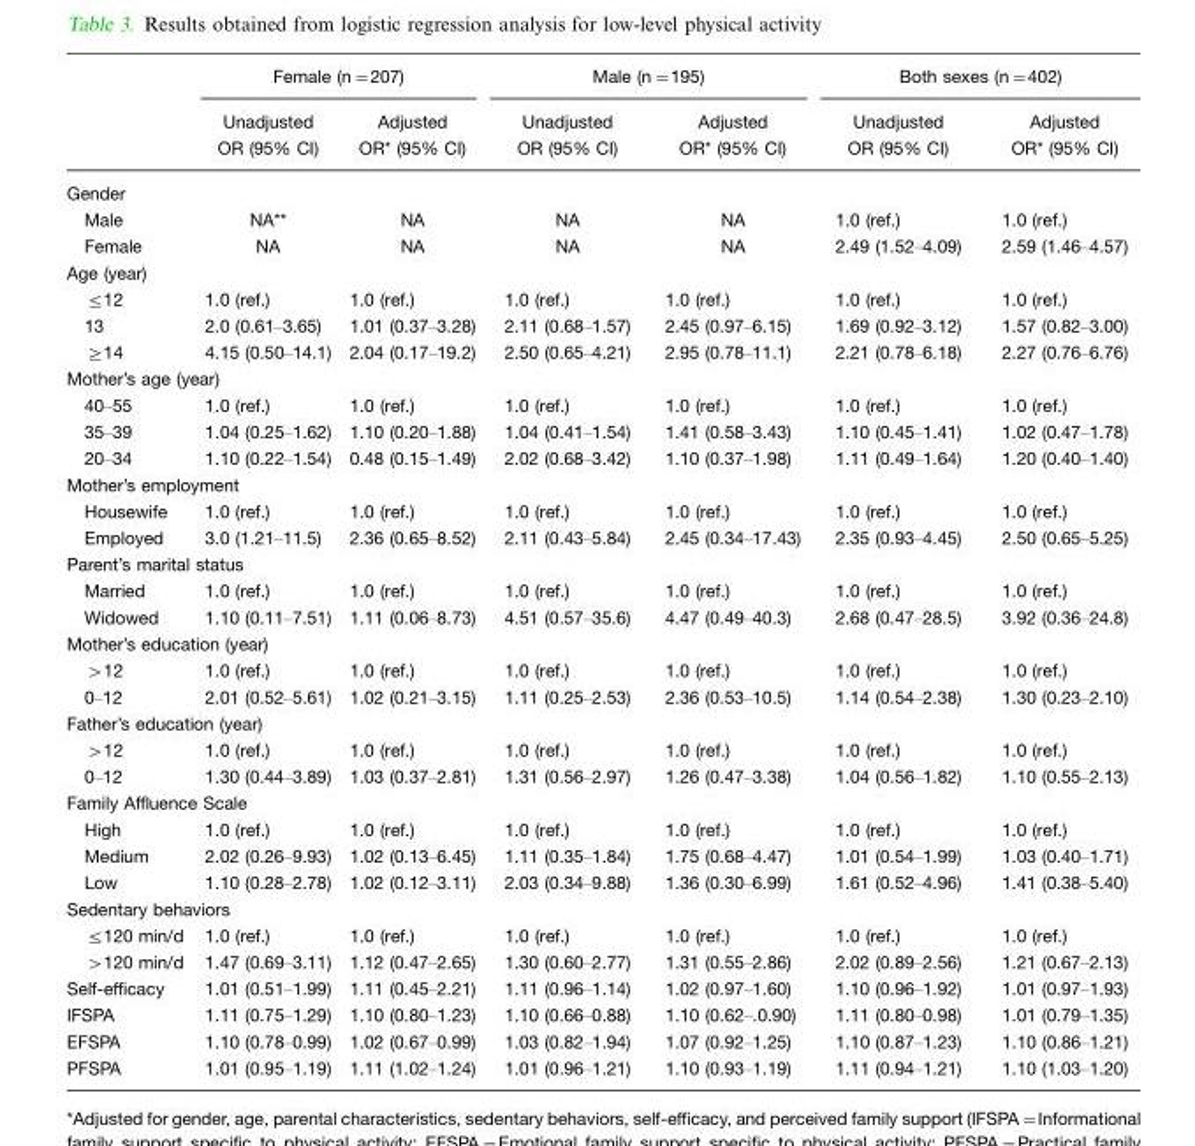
<table><thead><tr><td rowspan="2"></td><td colspan="2">Female (n=207)</td><td colspan="2">Male (n=195)</td><td colspan="2">Both sexes (n=402)</td></tr><tr><td>Unadjusted OR (95% CI)</td><td>Adjusted OR* (95% CI)</td><td>Unadjusted OR (95% CI)</td><td>Adjusted OR* (95% CI)</td><td>Unadjusted OR (95% CI)</td><td>Adjusted OR* (95% CI)</td></tr></thead><tbody><tr><td colspan="7">Gender</td></tr><tr><td>Male</td><td>NA**</td><td>NA</td><td>NA</td><td>NA</td><td>1.0 (ref.)</td><td>1.0 (ref.)</td></tr><tr><td>Female</td><td>NA</td><td>NA</td><td>NA</td><td>NA</td><td>2.49 (1.52–4.09)</td><td>2.59 (1.46–4.57)</td></tr><tr><td colspan="7">Age (year)</td></tr><tr><td>≤12</td><td>1.0 (ref.)</td><td>1.0 (ref.)</td><td>1.0 (ref.)</td><td>1.0 (ref.)</td><td>1.0 (ref.)</td><td>1.0 (ref.)</td></tr><tr><td>13</td><td>2.0 (0.61–3.65)</td><td>1.01 (0.37–3.28)</td><td>2.11 (0.68–1.57)</td><td>2.45 (0.97–6.15)</td><td>1.69 (0.92–3.12)</td><td>1.57 (0.82–3.00)</td></tr><tr><td>≥14</td><td>4.15 (0.50–14.1)</td><td>2.04 (0.17–19.2)</td><td>2.50 (0.65–4.21)</td><td>2.95 (0.78–11.1)</td><td>2.21 (0.78–6.18)</td><td>2.27 (0.76–6.76)</td></tr><tr><td colspan="7">Mother’s age (year)</td></tr><tr><td>40–55</td><td>1.0 (ref.)</td><td>1.0 (ref.)</td><td>1.0 (ref.)</td><td>1.0 (ref.)</td><td>1.0 (ref.)</td><td>1.0 (ref.)</td></tr><tr><td>35–39</td><td>1.04 (0.25–1.62)</td><td>1.10 (0.20–1.88)</td><td>1.04 (0.41–1.54)</td><td>1.41 (0.58–3.43)</td><td>1.10 (0.45–1.41)</td><td>1.02 (0.47–1.78)</td></tr><tr><td>20–34</td><td>1.10 (0.22–1.54)</td><td>0.48 (0.15–1.49)</td><td>2.02 (0.68–3.42)</td><td>1.10 (0.37–1.98)</td><td>1.11 (0.49–1.64)</td><td>1.20 (0.40–1.40)</td></tr><tr><td colspan="7">Mother’s employment</td></tr><tr><td>Housewife</td><td>1.0 (ref.)</td><td>1.0 (ref.)</td><td>1.0 (ref.)</td><td>1.0 (ref.)</td><td>1.0 (ref.)</td><td>1.0 (ref.)</td></tr><tr><td>Employed</td><td>3.0 (1.21–11.5)</td><td>2.36 (0.65–8.52)</td><td>2.11 (0.43–5.84)</td><td>2.45 (0.34–17.43)</td><td>2.35 (0.93–4.45)</td><td>2.50 (0.65–5.25)</td></tr><tr><td colspan="7">Parent’s marital status</td></tr><tr><td>Married</td><td>1.0 (ref.)</td><td>1.0 (ref.)</td><td>1.0 (ref.)</td><td>1.0 (ref.)</td><td>1.0 (ref.)</td><td>1.0 (ref.)</td></tr><tr><td>Widowed</td><td>1.10 (0.11–7.51)</td><td>1.11 (0.06–8.73)</td><td>4.51 (0.57–35.6)</td><td>4.47 (0.49–40.3)</td><td>2.68 (0.47–28.5)</td><td>3.92 (0.36–24.8)</td></tr><tr><td colspan="7">Mother’s education (year)</td></tr><tr><td>&gt;12</td><td>1.0 (ref.)</td><td>1.0 (ref.)</td><td>1.0 (ref.)</td><td>1.0 (ref.)</td><td>1.0 (ref.)</td><td>1.0 (ref.)</td></tr><tr><td>0–12</td><td>2.01 (0.52–5.61)</td><td>1.02 (0.21–3.15)</td><td>1.11 (0.25–2.53)</td><td>2.36 (0.53–10.5)</td><td>1.14 (0.54–2.38)</td><td>1.30 (0.23–2.10)</td></tr><tr><td colspan="7">Father’s education (year)</td></tr><tr><td>&gt;12</td><td>1.0 (ref.)</td><td>1.0 (ref.)</td><td>1.0 (ref.)</td><td>1.0 (ref.)</td><td>1.0 (ref.)</td><td>1.0 (ref.)</td></tr><tr><td>0–12</td><td>1.30 (0.44–3.89)</td><td>1.03 (0.37–2.81)</td><td>1.31 (0.56–2.97)</td><td>1.26 (0.47–3.38)</td><td>1.04 (0.56–1.82)</td><td>1.10 (0.55–2.13)</td></tr><tr><td colspan="7">Family Affluence Scale</td></tr><tr><td>High</td><td>1.0 (ref.)</td><td>1.0 (ref.)</td><td>1.0 (ref.)</td><td>1.0 (ref.)</td><td>1.0 (ref.)</td><td>1.0 (ref.)</td></tr><tr><td>Medium</td><td>2.02 (0.26–9.93)</td><td>1.02 (0.13–6.45)</td><td>1.11 (0.35–1.84)</td><td>1.75 (0.68–4.47)</td><td>1.01 (0.54–1.99)</td><td>1.03 (0.40–1.71)</td></tr><tr><td>Low</td><td>1.10 (0.28–2.78)</td><td>1.02 (0.12–3.11)</td><td>2.03 (0.34–9.88)</td><td>1.36 (0.30–6.99)</td><td>1.61 (0.52–4.96)</td><td>1.41 (0.38–5.40)</td></tr><tr><td colspan="7">Sedentary behaviors</td></tr><tr><td>≤120 min/d</td><td>1.0 (ref.)</td><td>1.0 (ref.)</td><td>1.0 (ref.)</td><td>1.0 (ref.)</td><td>1.0 (ref.)</td><td>1.0 (ref.)</td></tr><tr><td>&gt;120 min/d</td><td>1.47 (0.69–3.11)</td><td>1.12 (0.47–2.65)</td><td>1.30 (0.60–2.77)</td><td>1.31 (0.55–2.86)</td><td>2.02 (0.89–2.56)</td><td>1.21 (0.67–2.13)</td></tr><tr><td>Self-efficacy</td><td>1.01 (0.51–1.99)</td><td>1.11 (0.45–2.21)</td><td>1.11 (0.96–1.14)</td><td>1.02 (0.97–1.60)</td><td>1.10 (0.96–1.92)</td><td>1.01 (0.97–1.93)</td></tr><tr><td>IFSPA</td><td>1.11 (0.75–1.29)</td><td>1.10 (0.80–1.23)</td><td>1.10 (0.66–0.88)</td><td>1.10 (0.62–.0.90)</td><td>1.11 (0.80–0.98)</td><td>1.01 (0.79–1.35)</td></tr><tr><td>EFSPA</td><td>1.10 (0.78–0.99)</td><td>1.02 (0.67–0.99)</td><td>1.03 (0.82–1.94)</td><td>1.07 (0.92–1.25)</td><td>1.10 (0.87–1.23)</td><td>1.10 (0.86–1.21)</td></tr><tr><td>PFSPA</td><td>1.01 (0.95–1.19)</td><td>1.11 (1.02–1.24)</td><td>1.01 (0.96–1.21)</td><td>1.10 (0.93–1.19)</td><td>1.11 (0.94–1.21)</td><td>1.10 (1.03–1.20)</td></tr></tbody></table>